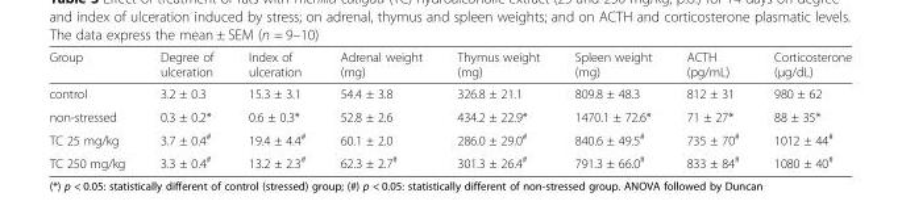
<table><thead><tr><td>Group</td><td>Degree of ulceration</td><td>Index of ulceration</td><td>Adrenal weight (mg)</td><td>Thymus weight (mg)</td><td>Spleen weight (mg)</td><td>ACTH (pg/mL)</td><td>Corticosterone (μg/dL)</td></tr></thead><tbody><tr><td>control</td><td>3.2 ± 0.3</td><td>15.3 ± 3.1</td><td>54.4 ± 3.8</td><td>326.8 ± 21.1</td><td>809.8 ± 48.3</td><td>812 ± 31</td><td>980 ± 62</td></tr><tr><td>non-stressed</td><td>0.3 ± 0.2*</td><td>0.6 ± 0.3*</td><td>52.8 ± 2.6</td><td>434.2 ± 22.9*</td><td>1470.1 ± 72.6*</td><td>71 ± 27*</td><td>88 ± 35*</td></tr><tr><td>TC 25 mg/kg</td><td>3.7 ± 0.4<sup>#</sup></td><td>19.4 ± 4.4<sup>#</sup></td><td>60.1 ± 2.0</td><td>286.0 ± 29.0<sup>#</sup></td><td>840.6 ± 49.5<sup>#</sup></td><td>735 ± 70<sup>#</sup></td><td>1012 ± 44<sup>#</sup></td></tr><tr><td>TC 250 mg/kg</td><td>3.3 ± 0.4<sup>#</sup></td><td>13.2 ± 2.3<sup>#</sup></td><td>62.3 ± 2.7<sup>#</sup></td><td>301.3 ± 26.4<sup>#</sup></td><td>791.3 ± 66.0<sup>#</sup></td><td>833 ± 84<sup>#</sup></td><td>1080 ± 40<sup>#</sup></td></tr></tbody></table>